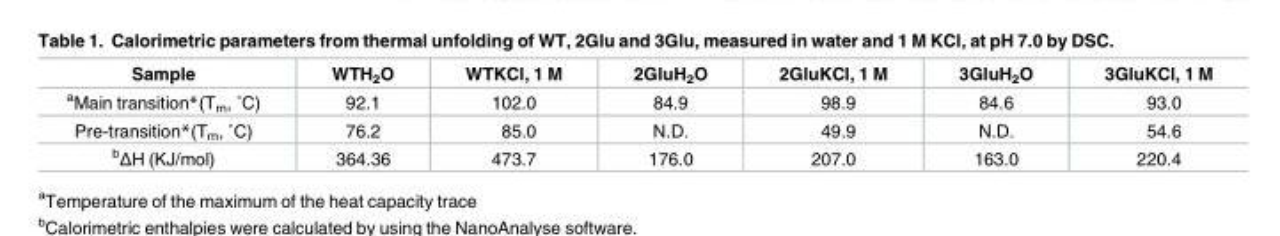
<table><thead><tr><td>Sample</td><td>WTH<sub>2</sub>O</td><td>WTKCl, 1 M</td><td>2GluH<sub>2</sub>O</td><td>2GluKCl, 1 M</td><td>3GluH<sub>2</sub>O</td><td>3GluKCl, 1 M</td></tr></thead><tbody><tr><td>aMain transition*(Tm, ˚C)</td><td>92.1</td><td>102.0</td><td>84.9</td><td>98.9</td><td>84.6</td><td>93.0</td></tr><tr><td>Pre-transition*(Tm, ˚C)</td><td>76.2</td><td>85.0</td><td>N.D.</td><td>49.9</td><td>N.D.</td><td>54.6</td></tr><tr><td><sup>b</sup>ΔH (KJ/mol)</td><td>364.36</td><td>473.7</td><td>176.0</td><td>207.0</td><td>163.0</td><td>220.4</td></tr></tbody></table>